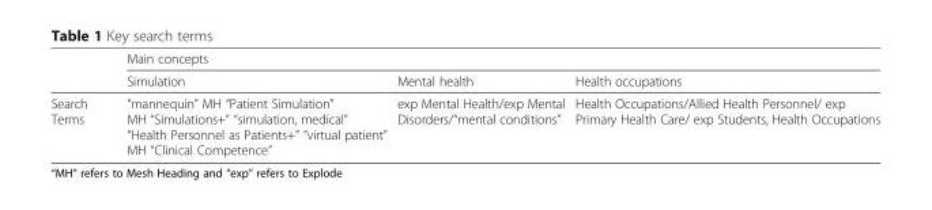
<table><thead><tr><td rowspan="2"></td><td colspan="3">Main concepts</td></tr><tr><td>Simulation</td><td>Mental health</td><td>Health occupations</td></tr></thead><tbody><tr><td>Search Terms</td><td>“mannequin” MH “Patient Simulation” MH “Simulations+” “simulation, medical” “Health Personnel as Patients+” “virtual patient” MH “Clinical Competence”</td><td>exp Mental Health/exp Mental Disorders/“mental conditions”</td><td>Health Occupations/Allied Health Personnel/ exp Primary Health Care/ exp Students, Health Occupations</td></tr></tbody></table>